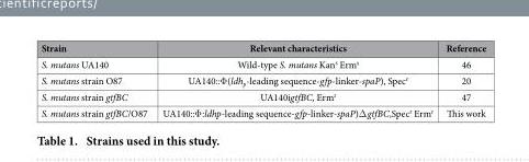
<table><thead><tr><td>Strain</td><td>Relevant characteristics</td><td>Reference</td></tr></thead><tbody><tr><td>S. mutans UA140</td><td>Wild-type S. mutans Kan<sup>s</sup> Erm<sup>s</sup></td><td>46</td></tr><tr><td>S. mutans strain O87</td><td>UA140::Φ (ldh<sub>p</sub>-leading sequence-gfp-linker-spaP), Spec<sup>r</sup></td><td>20</td></tr><tr><td>S. mutans strain gtfBC</td><td>UA140igtfBC, Erm<sup>r</sup></td><td>47</td></tr><tr><td>S. mutans strain gtfBC/O87</td><td>UA140::Φ :ldhp-leading sequence-gfp-linker-spaP)Δ gtfBC,Spec<sup>r</sup> Erm<sup>r</sup></td><td>This work</td></tr></tbody></table>